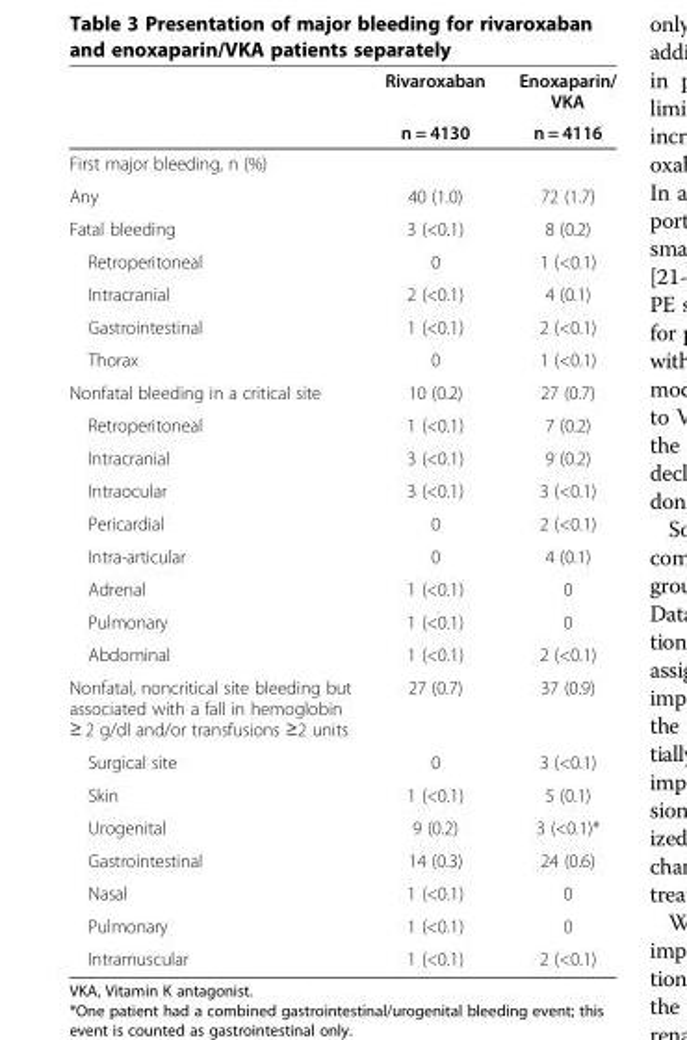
<table><thead><tr><td rowspan="2"></td><td rowspan="2">Rivaroxaban n = 4130</td><td rowspan="2">Enoxaparin/ VKA n = 4116</td></tr><tr></tr></thead><tbody><tr><td colspan="3">First major bleeding, n (%)</td></tr><tr><td>Any</td><td>40 (1.0)</td><td>72 (1.7)</td></tr><tr><td>Fatal bleeding</td><td>3 (&lt;0.1)</td><td>8 (0.2)</td></tr><tr><td>Retroperitoneal</td><td>0</td><td>1 (&lt;0.1)</td></tr><tr><td>Intracranial</td><td>2 (&lt;0.1)</td><td>4 (0.1)</td></tr><tr><td>Gastrointestinal</td><td>1 (&lt;0.1)</td><td>2 (&lt;0.1)</td></tr><tr><td>Thorax</td><td>0</td><td>1 (&lt;0.1)</td></tr><tr><td>Nonfatal bleeding in a critical site</td><td>10 (0.2)</td><td>27 (0.7)</td></tr><tr><td>Retroperitoneal</td><td>1 (&lt;0.1)</td><td>7 (0.2)</td></tr><tr><td>Intracranial</td><td>3 (&lt;0.1)</td><td>9 (0.2)</td></tr><tr><td>Intraocular</td><td>3 (&lt;0.1)</td><td>3 (&lt;0.1)</td></tr><tr><td>Pericardial</td><td>0</td><td>2 (&lt;0.1)</td></tr><tr><td>Intra-articular</td><td>0</td><td>4 (0.1)</td></tr><tr><td>Adrenal</td><td>1 (&lt;0.1)</td><td>0</td></tr><tr><td>Pulmonary</td><td>1 (&lt;0.1)</td><td>0</td></tr><tr><td>Abdominal</td><td>1 (&lt;0.1)</td><td>2 (&lt;0.1)</td></tr><tr><td>Nonfatal, noncritical site bleeding but associated with a fall in hemoglobin ≥ 2 g/dl and/or transfusions ≥2 units</td><td>27 (0.7)</td><td>37 (0.9)</td></tr><tr><td>Surgical site</td><td>0</td><td>3 (&lt;0.1)</td></tr><tr><td>Skin</td><td>1 (&lt;0.1)</td><td>5 (0.1)</td></tr><tr><td>Urogenital</td><td>9 (0.2)</td><td>3 (&lt;0.1)*</td></tr><tr><td>Gastrointestinal</td><td>14 (0.3)</td><td>24 (0.6)</td></tr><tr><td>Nasal</td><td>1 (&lt;0.1)</td><td>0</td></tr><tr><td>Pulmonary</td><td>1 (&lt;0.1)</td><td>0</td></tr><tr><td>Intramuscular</td><td>1 (&lt;0.1)</td><td>2 (&lt;0.1)</td></tr></tbody></table>